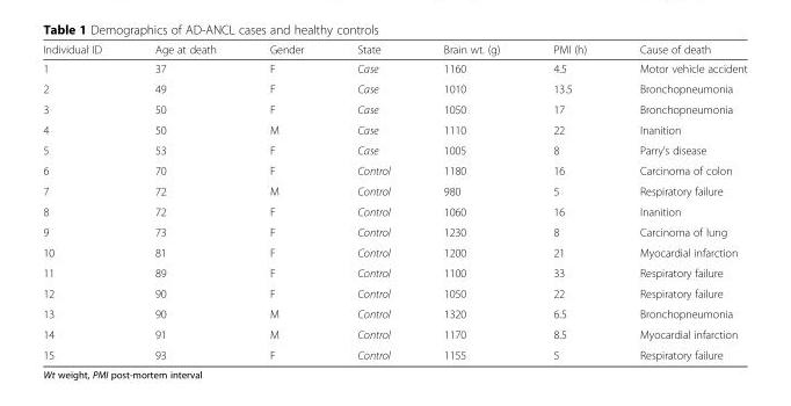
<table><thead><tr><td>Individual ID</td><td>Age at death</td><td>Gender</td><td>State</td><td>Brain wt. (g)</td><td>PMI (h)</td><td>Cause of death</td></tr></thead><tbody><tr><td>1</td><td>37</td><td>F</td><td>Case</td><td>1160</td><td>4.5</td><td>Motor vehicle accident</td></tr><tr><td>2</td><td>49</td><td>F</td><td>Case</td><td>1010</td><td>13.5</td><td>Bronchopneumonia</td></tr><tr><td>3</td><td>50</td><td>F</td><td>Case</td><td>1050</td><td>17</td><td>Bronchopneumonia</td></tr><tr><td>4</td><td>50</td><td>M</td><td>Case</td><td>1110</td><td>22</td><td>Inanition</td></tr><tr><td>5</td><td>53</td><td>F</td><td>Case</td><td>1005</td><td>8</td><td>Parry’s disease</td></tr><tr><td>6</td><td>70</td><td>F</td><td>Control</td><td>1180</td><td>16</td><td>Carcinoma of colon</td></tr><tr><td>7</td><td>72</td><td>M</td><td>Control</td><td>980</td><td>5</td><td>Respiratory failure</td></tr><tr><td>8</td><td>72</td><td>F</td><td>Control</td><td>1060</td><td>16</td><td>Inanition</td></tr><tr><td>9</td><td>73</td><td>F</td><td>Control</td><td>1230</td><td>8</td><td>Carcinoma of lung</td></tr><tr><td>10</td><td>81</td><td>F</td><td>Control</td><td>1200</td><td>21</td><td>Myocardial infarction</td></tr><tr><td>11</td><td>89</td><td>F</td><td>Control</td><td>1100</td><td>33</td><td>Respiratory failure</td></tr><tr><td>12</td><td>90</td><td>F</td><td>Control</td><td>1050</td><td>22</td><td>Respiratory failure</td></tr><tr><td>13</td><td>90</td><td>M</td><td>Control</td><td>1320</td><td>6.5</td><td>Bronchopneumonia</td></tr><tr><td>14</td><td>91</td><td>M</td><td>Control</td><td>1170</td><td>8.5</td><td>Myocardial infarction</td></tr><tr><td>15</td><td>93</td><td>F</td><td>Control</td><td>1155</td><td>5</td><td>Respiratory failure</td></tr></tbody></table>